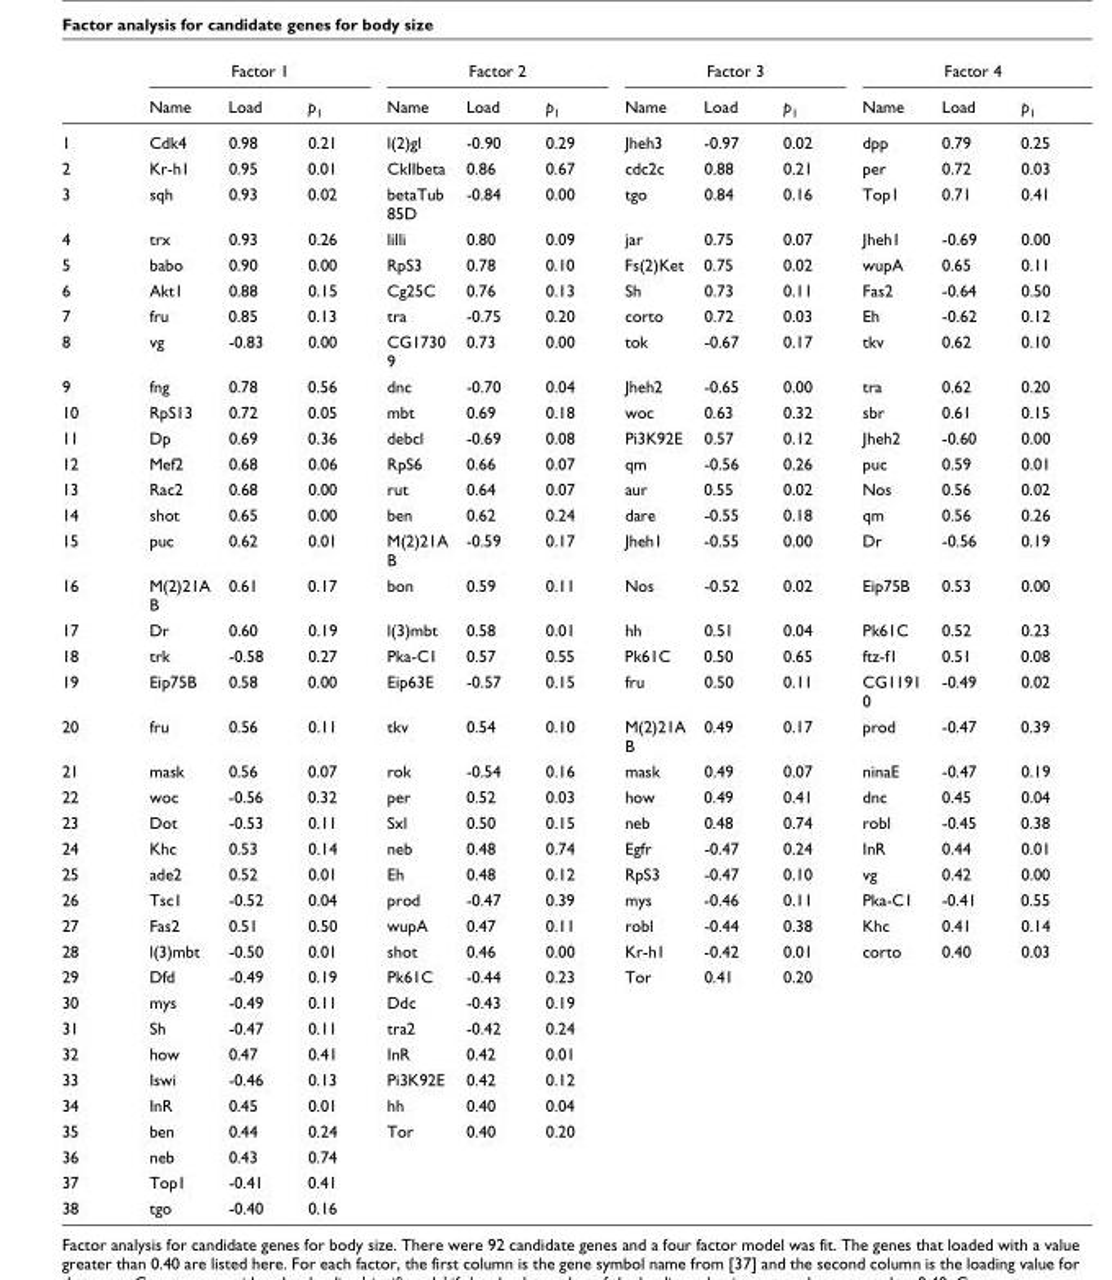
<table><thead><tr><td rowspan="2"></td><td colspan="3">Factor 1</td><td colspan="3">Factor 2</td><td colspan="3">Factor 3</td><td colspan="3">Factor 4</td></tr><tr><td>Name</td><td>Load</td><td>p1</td><td>Name</td><td>Load</td><td>p1</td><td>Name</td><td>Load</td><td>p1</td><td>Name</td><td>Load</td><td>p1</td></tr></thead><tbody><tr><td>1</td><td>Cdk4</td><td>0.98</td><td>0.21</td><td>l(2)gl</td><td>-0.90</td><td>0.29</td><td>Jheh3</td><td>-0.97</td><td>0.02</td><td>dpp</td><td>0.79</td><td>0.25</td></tr><tr><td>2</td><td>Kr-h1</td><td>0.95</td><td>0.01</td><td>CkIIbeta</td><td>0.86</td><td>0.67</td><td>cdc2c</td><td>0.88</td><td>0.21</td><td>per</td><td>0.72</td><td>0.03</td></tr><tr><td>3</td><td>sqh</td><td>0.93</td><td>0.02</td><td>betaTub 85D</td><td>-0.84</td><td>0.00</td><td>tgo</td><td>0.84</td><td>0.16</td><td>Top1</td><td>0.71</td><td>0.41</td></tr><tr><td>4</td><td>trx</td><td>0.93</td><td>0.26</td><td>lilli</td><td>0.80</td><td>0.09</td><td>jar</td><td>0.75</td><td>0.07</td><td>Jheh1</td><td>-0.69</td><td>0.00</td></tr><tr><td>5</td><td>babo</td><td>0.90</td><td>0.00</td><td>RpS3</td><td>0.78</td><td>0.10</td><td>Fs(2)Ket</td><td>0.75</td><td>0.02</td><td>wupA</td><td>0.65</td><td>0.11</td></tr><tr><td>6</td><td>Akt1</td><td>0.88</td><td>0.15</td><td>Cg25C</td><td>0.76</td><td>0.13</td><td>Sh</td><td>0.73</td><td>0.11</td><td>Fas2</td><td>-0.64</td><td>0.50</td></tr><tr><td>7</td><td>fru</td><td>0.85</td><td>0.13</td><td>tra</td><td>-0.75</td><td>0.20</td><td>corto</td><td>0.72</td><td>0.03</td><td>Eh</td><td>-0.62</td><td>0.12</td></tr><tr><td>8</td><td>vg</td><td>-0.83</td><td>0.00</td><td>CG1730 9</td><td>0.73</td><td>0.00</td><td>tok</td><td>-0.67</td><td>0.17</td><td>tkv</td><td>0.62</td><td>0.10</td></tr><tr><td>9</td><td>fng</td><td>0.78</td><td>0.56</td><td>dnc</td><td>-0.70</td><td>0.04</td><td>Jheh2</td><td>-0.65</td><td>0.00</td><td>tra</td><td>0.62</td><td>0.20</td></tr><tr><td>10</td><td>RpS13</td><td>0.72</td><td>0.05</td><td>mbt</td><td>0.69</td><td>0.18</td><td>woc</td><td>0.63</td><td>0.32</td><td>sbr</td><td>0.61</td><td>0.15</td></tr><tr><td>11</td><td>Dp</td><td>0.69</td><td>0.36</td><td>debcl</td><td>-0.69</td><td>0.08</td><td>Pi3K92E</td><td>0.57</td><td>0.12</td><td>Jheh2</td><td>-0.60</td><td>0.00</td></tr><tr><td>12</td><td>Mef2</td><td>0.68</td><td>0.06</td><td>RpS6</td><td>0.66</td><td>0.07</td><td>qm</td><td>-0.56</td><td>0.26</td><td>puc</td><td>0.59</td><td>0.01</td></tr><tr><td>13</td><td>Rac2</td><td>0.68</td><td>0.00</td><td>rut</td><td>0.64</td><td>0.07</td><td>aur</td><td>0.55</td><td>0.02</td><td>Nos</td><td>0.56</td><td>0.02</td></tr><tr><td>14</td><td>shot</td><td>0.65</td><td>0.00</td><td>ben</td><td>0.62</td><td>0.24</td><td>dare</td><td>-0.55</td><td>0.18</td><td>qm</td><td>0.56</td><td>0.26</td></tr><tr><td>15</td><td>puc</td><td>0.62</td><td>0.01</td><td>M(2)21A B</td><td>-0.59</td><td>0.17</td><td>Jheh1</td><td>-0.55</td><td>0.00</td><td>Dr</td><td>-0.56</td><td>0.19</td></tr><tr><td>16</td><td>M(2)21A B</td><td>0.61</td><td>0.17</td><td>bon</td><td>0.59</td><td>0.11</td><td>Nos</td><td>-0.52</td><td>0.02</td><td>Eip75B</td><td>0.53</td><td>0.00</td></tr><tr><td>17</td><td>Dr</td><td>0.60</td><td>0.19</td><td>l(3)mbt</td><td>0.58</td><td>0.01</td><td>hh</td><td>0.51</td><td>0.04</td><td>Pk61C</td><td>0.52</td><td>0.23</td></tr><tr><td>18</td><td>trk</td><td>-0.58</td><td>0.27</td><td>Pka-C1</td><td>0.57</td><td>0.55</td><td>Pk61C</td><td>0.50</td><td>0.65</td><td>ftz-f1</td><td>0.51</td><td>0.08</td></tr><tr><td>19</td><td>Eip75B</td><td>0.58</td><td>0.00</td><td>Eip63E</td><td>-0.57</td><td>0.15</td><td>fru</td><td>0.50</td><td>0.11</td><td>CG1191 0</td><td>-0.49</td><td>0.02</td></tr><tr><td>20</td><td>fru</td><td>0.56</td><td>0.11</td><td>tkv</td><td>0.54</td><td>0.10</td><td>M(2)21A B</td><td>0.49</td><td>0.17</td><td>prod</td><td>-0.47</td><td>0.39</td></tr><tr><td>21</td><td>mask</td><td>0.56</td><td>0.07</td><td>rok</td><td>-0.54</td><td>0.16</td><td>mask</td><td>0.49</td><td>0.07</td><td>ninaE</td><td>-0.47</td><td>0.19</td></tr><tr><td>22</td><td>woc</td><td>-0.56</td><td>0.32</td><td>per</td><td>0.52</td><td>0.03</td><td>how</td><td>0.49</td><td>0.41</td><td>dnc</td><td>0.45</td><td>0.04</td></tr><tr><td>23</td><td>Dot</td><td>-0.53</td><td>0.11</td><td>Sxl</td><td>0.50</td><td>0.15</td><td>neb</td><td>0.48</td><td>0.74</td><td>robl</td><td>-0.45</td><td>0.38</td></tr><tr><td>24</td><td>Khc</td><td>0.53</td><td>0.14</td><td>neb</td><td>0.48</td><td>0.74</td><td>Egfr</td><td>-0.47</td><td>0.24</td><td>InR</td><td>0.44</td><td>0.01</td></tr><tr><td>25</td><td>ade2</td><td>0.52</td><td>0.01</td><td>Eh</td><td>0.48</td><td>0.12</td><td>RpS3</td><td>-0.47</td><td>0.10</td><td>vg</td><td>0.42</td><td>0.00</td></tr><tr><td>26</td><td>Tsc1</td><td>-0.52</td><td>0.04</td><td>prod</td><td>-0.47</td><td>0.39</td><td>mys</td><td>-0.46</td><td>0.11</td><td>Pka-C1</td><td>-0.41</td><td>0.55</td></tr><tr><td>27</td><td>Fas2</td><td>0.51</td><td>0.50</td><td>wupA</td><td>0.47</td><td>0.11</td><td>robl</td><td>-0.44</td><td>0.38</td><td>Khc</td><td>0.41</td><td>0.14</td></tr><tr><td>28</td><td>l(3)mbt</td><td>-0.50</td><td>0.01</td><td>shot</td><td>0.46</td><td>0.00</td><td>Kr-h1</td><td>-0.42</td><td>0.01</td><td>corto</td><td>0.40</td><td>0.03</td></tr><tr><td>29</td><td>Dfd</td><td>-0.49</td><td>0.19</td><td>Pk61C</td><td>-0.44</td><td>0.23</td><td>Tor</td><td>0.41</td><td>0.20</td><td></td><td></td><td></td></tr><tr><td>30</td><td>mys</td><td>-0.49</td><td>0.11</td><td>Ddc</td><td>-0.43</td><td>0.19</td><td></td><td></td><td></td><td></td><td></td><td></td></tr><tr><td>31</td><td>Sh</td><td>-0.47</td><td>0.11</td><td>tra2</td><td>-0.42</td><td>0.24</td><td></td><td></td><td></td><td></td><td></td><td></td></tr><tr><td>32</td><td>how</td><td>0.47</td><td>0.41</td><td>InR</td><td>0.42</td><td>0.01</td><td></td><td></td><td></td><td></td><td></td><td></td></tr><tr><td>33</td><td>Iswi</td><td>-0.46</td><td>0.13</td><td>Pi3K92E</td><td>0.42</td><td>0.12</td><td></td><td></td><td></td><td></td><td></td><td></td></tr><tr><td>34</td><td>InR</td><td>0.45</td><td>0.01</td><td>hh</td><td>0.40</td><td>0.04</td><td></td><td></td><td></td><td></td><td></td><td></td></tr><tr><td>35</td><td>ben</td><td>0.44</td><td>0.24</td><td>Tor</td><td>0.40</td><td>0.20</td><td></td><td></td><td></td><td></td><td></td><td></td></tr><tr><td>36</td><td>neb</td><td>0.43</td><td>0.74</td><td></td><td></td><td></td><td></td><td></td><td></td><td></td><td></td><td></td></tr><tr><td>37</td><td>Top1</td><td>-0.41</td><td>0.41</td><td></td><td></td><td></td><td></td><td></td><td></td><td></td><td></td><td></td></tr><tr><td>38</td><td>tgo</td><td>-0.40</td><td>0.16</td><td></td><td></td><td></td><td></td><td></td><td></td><td></td><td></td><td></td></tr></tbody></table>